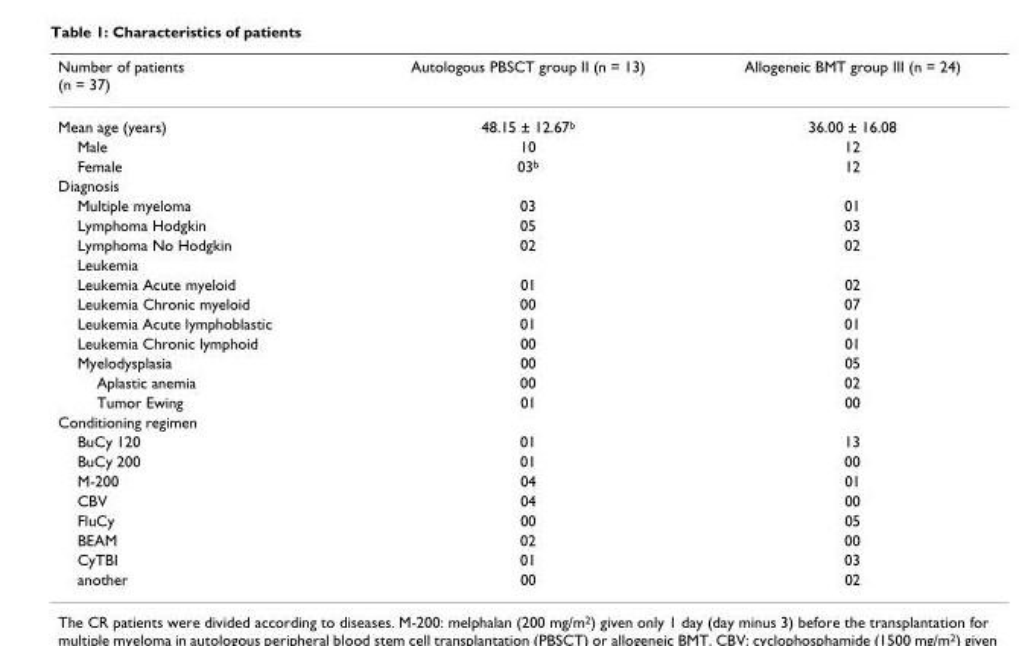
<table><thead><tr><td>Number of patients (n = 37)</td><td>Autologous PBSCT group II (n = 13)</td><td>Allogeneic BMT group III (n = 24)</td></tr></thead><tbody><tr><td>Mean age (years)</td><td>48.15 ± 12.67<sup>b</sup></td><td>36.00 ± 16.08</td></tr><tr><td>Male</td><td>10</td><td>12</td></tr><tr><td>Female</td><td>03<sup>b</sup></td><td>12</td></tr><tr><td colspan="3">Diagnosis</td></tr><tr><td>Multiple myeloma</td><td>03</td><td>01</td></tr><tr><td>Lymphoma Hodgkin</td><td>05</td><td>03</td></tr><tr><td>Lymphoma No Hodgkin</td><td>02</td><td>02</td></tr><tr><td colspan="3">Leukemia</td></tr><tr><td>Leukemia Acute myeloid</td><td>01</td><td>02</td></tr><tr><td>Leukemia Chronic myeloid</td><td>00</td><td>07</td></tr><tr><td>Leukemia Acute lymphoblastic</td><td>01</td><td>01</td></tr><tr><td>Leukemia Chronic lymphoid</td><td>00</td><td>01</td></tr><tr><td>Myelodysplasia</td><td>00</td><td>05</td></tr><tr><td>Aplastic anemia</td><td>00</td><td>02</td></tr><tr><td>Tumor Ewing</td><td>01</td><td>00</td></tr><tr><td colspan="3">Conditioning regimen</td></tr><tr><td>BuCy 120</td><td>01</td><td>13</td></tr><tr><td>BuCy 200</td><td>01</td><td>00</td></tr><tr><td>M-200</td><td>04</td><td>01</td></tr><tr><td>CBV</td><td>04</td><td>00</td></tr><tr><td>FluCy</td><td>00</td><td>05</td></tr><tr><td>BEAM</td><td>02</td><td>00</td></tr><tr><td>CyTBI</td><td>01</td><td>03</td></tr><tr><td>another</td><td>00</td><td>02</td></tr></tbody></table>